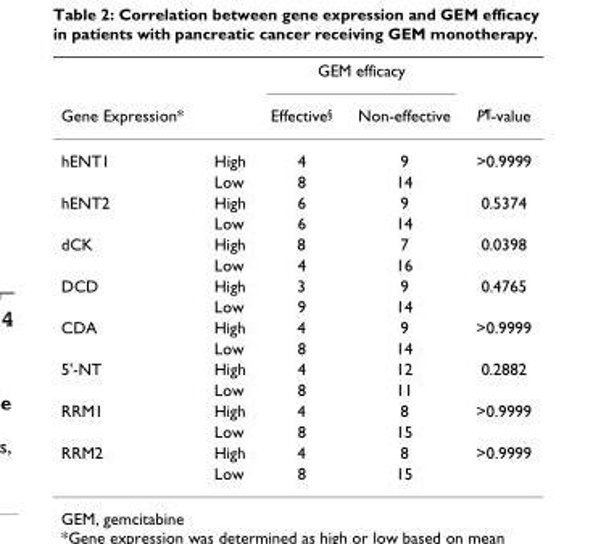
<table><thead><tr><td rowspan="2">Gene Expression*</td><td rowspan="2"></td><td colspan="2">GEM efficacy</td><td rowspan="2">P<sup>¶</sup>-value</td></tr><tr><td>Effective<sup>§</sup></td><td>Non-effective</td></tr></thead><tbody><tr><td rowspan="2">hENT1</td><td>High</td><td>4</td><td>9</td><td>&gt;0.9999</td></tr><tr><td>Low</td><td>8</td><td>14</td><td></td></tr><tr><td rowspan="2">hENT2</td><td>High</td><td>6</td><td>9</td><td>0.5374</td></tr><tr><td>Low</td><td>6</td><td>14</td><td></td></tr><tr><td rowspan="2">dCK</td><td>High</td><td>8</td><td>7</td><td>0.0398</td></tr><tr><td>Low</td><td>4</td><td>16</td><td></td></tr><tr><td rowspan="2">DCD</td><td>High</td><td>3</td><td>9</td><td>0.4765</td></tr><tr><td>Low</td><td>9</td><td>14</td><td></td></tr><tr><td rowspan="2">CDA</td><td>High</td><td>4</td><td>9</td><td>&gt;0.9999</td></tr><tr><td>Low</td><td>8</td><td>14</td><td></td></tr><tr><td rowspan="2">5&#x27;-NT</td><td>High</td><td>4</td><td>12</td><td>0.2882</td></tr><tr><td>Low</td><td>8</td><td>11</td><td></td></tr><tr><td rowspan="2">RRM1</td><td>High</td><td>4</td><td>8</td><td>&gt;0.9999</td></tr><tr><td>Low</td><td>8</td><td>15</td><td></td></tr><tr><td rowspan="2">RRM2</td><td>High</td><td>4</td><td>8</td><td>&gt;0.9999</td></tr><tr><td>Low</td><td>8</td><td>15</td><td></td></tr></tbody></table>